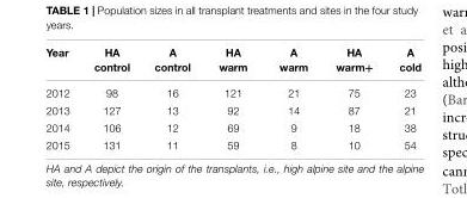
<table><thead><tr><td>Year</td><td>HA control</td><td>A control</td><td>HA warm</td><td>A warm</td><td>HA warm+</td><td>A cold</td></tr></thead><tbody><tr><td>2012</td><td>98</td><td>16</td><td>121</td><td>21</td><td>75</td><td>23</td></tr><tr><td>2013</td><td>127</td><td>13</td><td>92</td><td>14</td><td>87</td><td>21</td></tr><tr><td>2014</td><td>106</td><td>12</td><td>69</td><td>9</td><td>18</td><td>38</td></tr><tr><td>2015</td><td>131</td><td>11</td><td>59</td><td>8</td><td>10</td><td>54</td></tr></tbody></table>